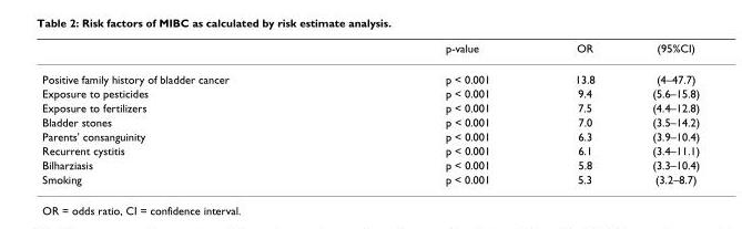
<table><thead><tr><td></td><td>p-value</td><td>OR</td><td>(95%CI)</td></tr></thead><tbody><tr><td>Positive family history of bladder cancer</td><td>p &lt; 0.001</td><td>13.8</td><td>(4–47.7)</td></tr><tr><td>Exposure to pesticides</td><td>p &lt; 0.001</td><td>9.4</td><td>(5.6–15.8)</td></tr><tr><td>Exposure to fertilizers</td><td>p &lt; 0.001</td><td>7.5</td><td>(4.4–12.8)</td></tr><tr><td>Bladder stones</td><td>p &lt; 0.001</td><td>7.0</td><td>(3.5–14.2)</td></tr><tr><td>Parents&#x27; consanguinity</td><td>p &lt; 0.001</td><td>6.3</td><td>(3.9–10.4)</td></tr><tr><td>Recurrent cystitis</td><td>p &lt; 0.001</td><td>6.1</td><td>(3.4–11.1)</td></tr><tr><td>Bilharziasis</td><td>p &lt; 0.001</td><td>5.8</td><td>(3.3–10.4)</td></tr><tr><td>Smoking</td><td>p &lt; 0.001</td><td>5.3</td><td>(3.2–8.7)</td></tr></tbody></table>